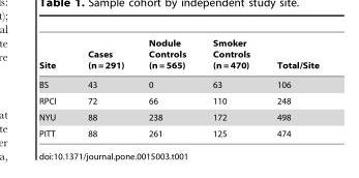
<table><thead><tr><td>Site</td><td>Cases (n = 291)</td><td>Nodule Controls (n = 565)</td><td>Smoker Controls (n = 470)</td><td>Total/Site</td></tr></thead><tbody><tr><td>BS</td><td>43</td><td>0</td><td>63</td><td>106</td></tr><tr><td>RPCI</td><td>72</td><td>66</td><td>110</td><td>248</td></tr><tr><td>NYU</td><td>88</td><td>238</td><td>172</td><td>498</td></tr><tr><td>PITT</td><td>88</td><td>261</td><td>125</td><td>474</td></tr></tbody></table>